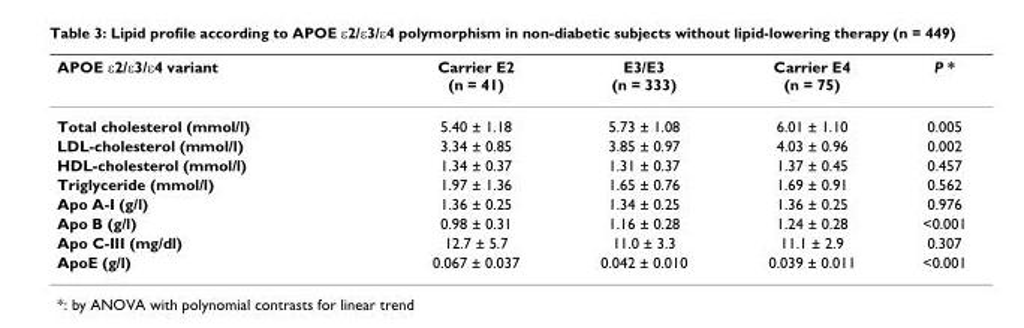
<table><thead><tr><td>APOE ε2/ε3/ε4 variant</td><td>Carrier E2 (n = 41)</td><td>E3/E3 (n = 333)</td><td>Carrier E4 (n = 75)</td><td>P *</td></tr></thead><tbody><tr><td>Total cholesterol (mmol/l)</td><td>5.40 ± 1.18</td><td>5.73 ± 1.08</td><td>6.01 ± 1.10</td><td>0.005</td></tr><tr><td>LDL-cholesterol (mmol/l)</td><td>3.34 ± 0.85</td><td>3.85 ± 0.97</td><td>4.03 ± 0.96</td><td>0.002</td></tr><tr><td>HDL-cholesterol (mmol/l)</td><td>1.34 ± 0.37</td><td>1.31 ± 0.37</td><td>1.37 ± 0.45</td><td>0.457</td></tr><tr><td>Triglyceride (mmol/l)</td><td>1.97 ± 1.36</td><td>1.65 ± 0.76</td><td>1.69 ± 0.91</td><td>0.562</td></tr><tr><td>Apo A-I (g/l)</td><td>1.36 ± 0.25</td><td>1.34 ± 0.25</td><td>1.36 ± 0.25</td><td>0.976</td></tr><tr><td>Apo B (g/l)</td><td>0.98 ± 0.31</td><td>1.16 ± 0.28</td><td>1.24 ± 0.28</td><td>&lt;0.001</td></tr><tr><td>Apo C-III (mg/dl)</td><td>12.7 ± 5.7</td><td>11.0 ± 3.3</td><td>11.1 ± 2.9</td><td>0.307</td></tr><tr><td>ApoE (g/l)</td><td>0.067 ± 0.037</td><td>0.042 ± 0.010</td><td>0.039 ± 0.011</td><td>&lt;0.001</td></tr></tbody></table>